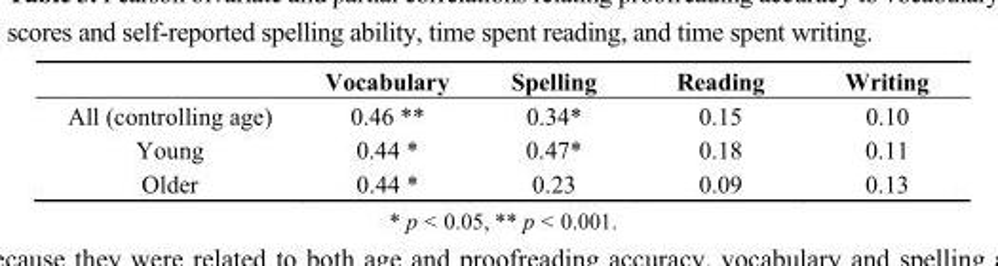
<table><thead><tr><td></td><td>Vocabulary</td><td>Spelling</td><td>Reading</td><td>Writing</td></tr></thead><tbody><tr><td>All (controlling age)</td><td>0.46 **</td><td>0.34*</td><td>0.15</td><td>0.10</td></tr><tr><td>Young</td><td>0.44 *</td><td>0.47*</td><td>0.18</td><td>0.11</td></tr><tr><td>Older</td><td>0.44 *</td><td>0.23</td><td>0.09</td><td>0.13</td></tr></tbody></table>